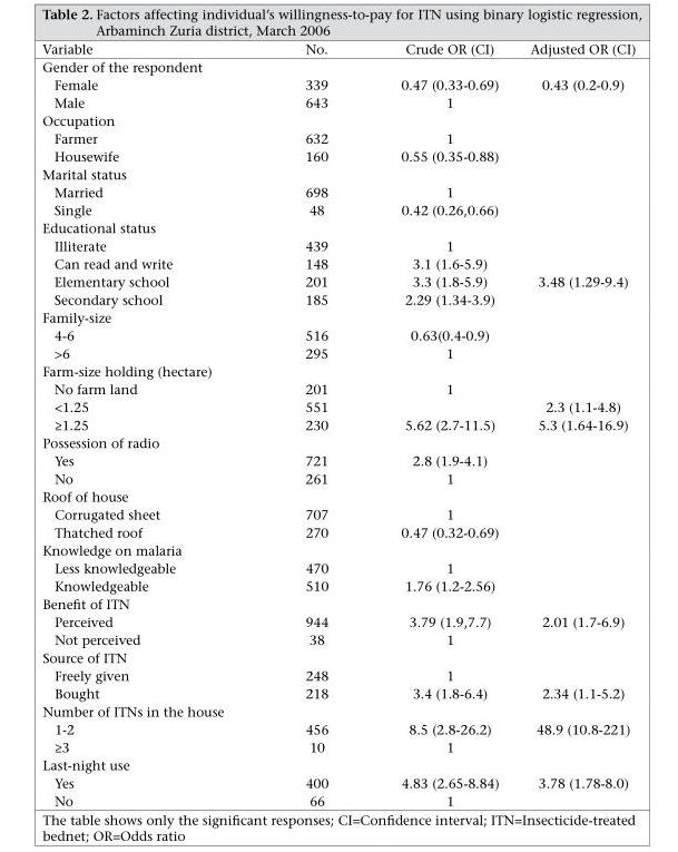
<table><thead><tr><td>Variable</td><td>No.</td><td>Crude OR (CI)</td><td>Adjusted OR (CI)</td></tr></thead><tbody><tr><td colspan="4">Gender of the respondent</td></tr><tr><td>Female</td><td>339</td><td>0.47 (0.33-0.69)</td><td>0.43 (0.2-0.9)</td></tr><tr><td>Male</td><td>643</td><td>1</td><td></td></tr><tr><td colspan="3">Occupation</td><td rowspan="3"></td></tr><tr><td>Farmer</td><td>632</td><td>1</td></tr><tr><td>Housewife</td><td>160</td><td>0.55 (0.35-0.88)</td></tr><tr><td colspan="3">Marital status</td><td rowspan="3"></td></tr><tr><td>Married</td><td>698</td><td>1</td></tr><tr><td>Single</td><td>48</td><td>0.42 (0.26,0.66)</td></tr><tr><td colspan="4">Educational status</td></tr><tr><td>Illiterate</td><td>439</td><td>1</td><td></td></tr><tr><td>Can read and write</td><td>148</td><td>3.1 (1.6-5.9)</td><td></td></tr><tr><td>Elementary school</td><td>201</td><td>3.3 (1.8-5.9)</td><td>3.48 (1.29-9.4)</td></tr><tr><td>Secondary school</td><td>185</td><td>2.29 (1.34-3.9)</td><td></td></tr><tr><td colspan="3">Family-size</td><td rowspan="3"></td></tr><tr><td>4-6</td><td>516</td><td>0.63(0.4-0.9)</td></tr><tr><td>&gt;6</td><td>295</td><td>1</td></tr><tr><td colspan="4">Farm-size holding (hectare)</td></tr><tr><td>No farm land</td><td>201</td><td>1</td><td></td></tr><tr><td>&lt;1.25</td><td>551</td><td></td><td>2.3 (1.1-4.8)</td></tr><tr><td>≥1.25</td><td>230</td><td>5.62 (2.7-11.5)</td><td>5.3 (1.64-16.9)</td></tr><tr><td colspan="3">Possession of radio</td><td rowspan="3"></td></tr><tr><td>Yes</td><td>721</td><td>2.8 (1.9-4.1)</td></tr><tr><td>No</td><td>261</td><td>1</td></tr><tr><td colspan="3">Roof of house</td><td rowspan="3"></td></tr><tr><td>Corrugated sheet</td><td>707</td><td>1</td></tr><tr><td>Thatched roof</td><td>270</td><td>0.47 (0.32-0.69)</td></tr><tr><td colspan="3">Knowledge on malaria</td><td rowspan="3"></td></tr><tr><td>Less knowledgeable</td><td>470</td><td>1</td></tr><tr><td>Knowledgeable</td><td>510</td><td>1.76 (1.2-2.56)</td></tr><tr><td colspan="4">Benefit of ITN</td></tr><tr><td>Perceived</td><td>944</td><td>3.79 (1.9,7.7)</td><td>2.01 (1.7-6.9)</td></tr><tr><td>Not perceived</td><td>38</td><td>1</td><td></td></tr><tr><td colspan="4">Source of ITN</td></tr><tr><td>Freely given</td><td>248</td><td>1</td><td></td></tr><tr><td>Bought</td><td>218</td><td>3.4 (1.8-6.4)</td><td>2.34 (1.1-5.2)</td></tr><tr><td colspan="4">Number of ITNs in the house</td></tr><tr><td>1-2</td><td>456</td><td>8.5 (2.8-26.2)</td><td>48.9 (10.8-221)</td></tr><tr><td>≥3</td><td>10</td><td>1</td><td></td></tr><tr><td colspan="4">Last-night use</td></tr><tr><td>Yes</td><td>400</td><td>4.83 (2.65-8.84)</td><td>3.78 (1.78-8.0)</td></tr><tr><td>No</td><td>66</td><td>1</td><td></td></tr></tbody></table>